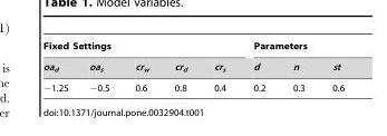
<table><thead><tr><td colspan="5">Fixed Settings</td><td colspan="3">Parameters</td></tr><tr><td>oa<sub>d</sub></td><td>oa<sub>s</sub></td><td>cr<sub>w</sub></td><td>cr<sub>d</sub></td><td>cr<sub>s</sub></td><td>d</td><td>n</td><td>st</td></tr></thead><tbody><tr><td>−1.25</td><td>−0.5</td><td>0.6</td><td>0.8</td><td>0.4</td><td>0.2</td><td>0.3</td><td>0.6</td></tr></tbody></table>